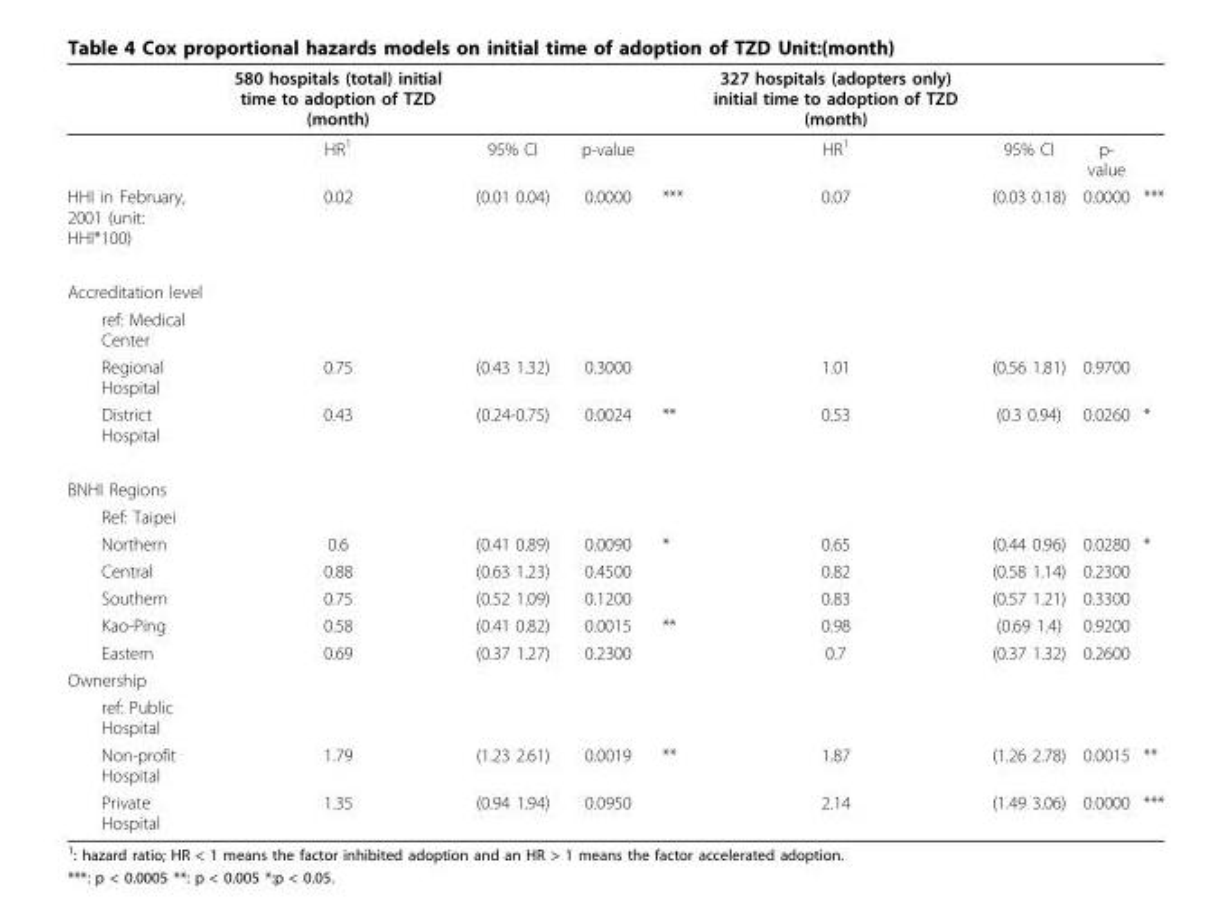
<table><thead><tr><td></td><td>580 hospitals (total) initial time to adoption of TZD (month)</td><td></td><td></td><td></td><td>327 hospitals (adopters only) initial time to adoption of TZD (month)</td><td></td><td></td><td></td></tr></thead><tbody><tr><td></td><td>HR<sup>1</sup></td><td>95% CI</td><td>p-value</td><td></td><td>HR<sup>1</sup></td><td>95% CI</td><td>p- value</td><td></td></tr><tr><td>HHI in February, 2001 (unit: HHI*100)</td><td>0.02</td><td>(0.01 0.04)</td><td>0.0000</td><td>***</td><td>0.07</td><td>(0.03 0.18)</td><td>0.0000</td><td>***</td></tr><tr><td colspan="9">Accreditation level</td></tr><tr><td colspan="9">ref: Medical Center</td></tr><tr><td>Regional Hospital</td><td>0.75</td><td>(0.43 1.32)</td><td>0.3000</td><td></td><td>1.01</td><td>(0.56 1.81)</td><td>0.9700</td><td></td></tr><tr><td>District Hospital</td><td>0.43</td><td>(0.24-0.75)</td><td>0.0024</td><td>**</td><td>0.53</td><td>(0.3 0.94)</td><td>0.0260</td><td>*</td></tr><tr><td colspan="9">BNHI Regions</td></tr><tr><td colspan="9">Ref: Taipei</td></tr><tr><td>Northern</td><td>0.6</td><td>(0.41 0.89)</td><td>0.0090</td><td>*</td><td>0.65</td><td>(0.44 0.96)</td><td>0.0280</td><td>*</td></tr><tr><td>Central</td><td>0.88</td><td>(0.63 1.23)</td><td>0.4500</td><td></td><td>0.82</td><td>(0.58 1.14)</td><td>0.2300</td><td></td></tr><tr><td>Southern</td><td>0.75</td><td>(0.52 1.09)</td><td>0.1200</td><td></td><td>0.83</td><td>(0.57 1.21)</td><td>0.3300</td><td></td></tr><tr><td>Kao-Ping</td><td>0.58</td><td>(0.41 0.82)</td><td>0.0015</td><td>**</td><td>0.98</td><td>(0.69 1.4)</td><td>0.9200</td><td></td></tr><tr><td>Eastern</td><td>0.69</td><td>(0.37 1.27)</td><td>0.2300</td><td></td><td>0.7</td><td>(0.37 1.32)</td><td>0.2600</td><td></td></tr><tr><td colspan="9">Ownership</td></tr><tr><td colspan="9">ref: Public Hospital</td></tr><tr><td>Non-profit Hospital</td><td>1.79</td><td>(1.23 2.61)</td><td>0.0019</td><td>**</td><td>1.87</td><td>(1.26 2.78)</td><td>0.0015</td><td>**</td></tr><tr><td>Private Hospital</td><td>1.35</td><td>(0.94 1.94)</td><td>0.0950</td><td></td><td>2.14</td><td>(1.49 3.06)</td><td>0.0000</td><td>***</td></tr></tbody></table>